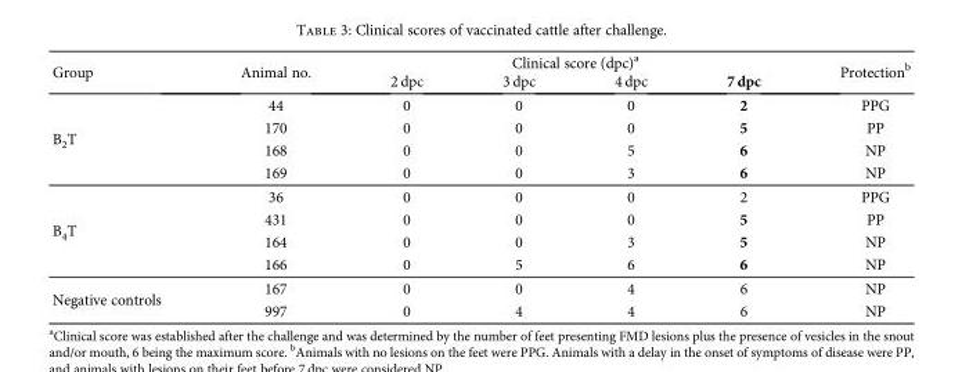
<table><thead><tr><td rowspan="2">Group</td><td rowspan="2">Animal no.</td><td colspan="4">Clinical score (dpc)<sup>a</sup></td><td rowspan="2">Protection<sup>b</sup></td></tr><tr><td>2 dpc</td><td>3 dpc</td><td>4 dpc</td><td>7 dpc</td></tr></thead><tbody><tr><td rowspan="4">B<sub>2</sub>T</td><td>44</td><td>0</td><td>0</td><td>0</td><td>2</td><td>PPG</td></tr><tr><td>170</td><td>0</td><td>0</td><td>0</td><td>5</td><td>PP</td></tr><tr><td>168</td><td>0</td><td>0</td><td>5</td><td>6</td><td>NP</td></tr><tr><td>169</td><td>0</td><td>0</td><td>3</td><td>6</td><td>NP</td></tr><tr><td rowspan="4">B<sub>4</sub>T</td><td>36</td><td>0</td><td>0</td><td>0</td><td>2</td><td>PPG</td></tr><tr><td>431</td><td>0</td><td>0</td><td>0</td><td>5</td><td>PP</td></tr><tr><td>164</td><td>0</td><td>0</td><td>3</td><td>5</td><td>NP</td></tr><tr><td>166</td><td>0</td><td>5</td><td>6</td><td>6</td><td>NP</td></tr><tr><td rowspan="2">Negative controls</td><td>167</td><td>0</td><td>0</td><td>4</td><td>6</td><td>NP</td></tr><tr><td>997</td><td>0</td><td>4</td><td>4</td><td>6</td><td>NP</td></tr></tbody></table>